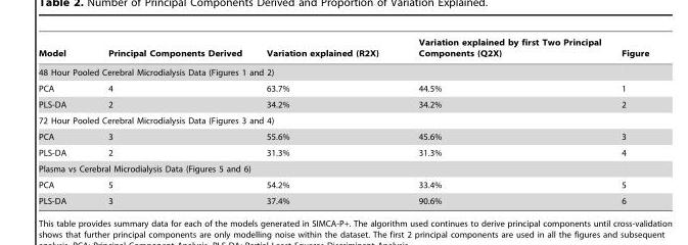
<table><thead><tr><td>Model</td><td>Principal Components Derived</td><td>Variation explained (R2X)</td><td>Variation explained by first Two Principal Components (Q2X)</td><td>Figure</td></tr></thead><tbody><tr><td colspan="5">48 Hour Pooled Cerebral Microdialysis Data (Figures 1 and 2)</td></tr><tr><td>PCA</td><td>4</td><td>63.7%</td><td>44.5%</td><td>1</td></tr><tr><td>PLS-DA</td><td>2</td><td>34.2%</td><td>34.2%</td><td>2</td></tr><tr><td colspan="5">72 Hour Pooled Cerebral Microdialysis Data (Figures 3 and 4)</td></tr><tr><td>PCA</td><td>3</td><td>55.6%</td><td>45.6%</td><td>3</td></tr><tr><td>PLS-DA</td><td>2</td><td>31.3%</td><td>31.3%</td><td>4</td></tr><tr><td colspan="5">Plasma vs Cerebral Microdialysis Data (Figures 5 and 6)</td></tr><tr><td>PCA</td><td>5</td><td>54.2%</td><td>33.4%</td><td>5</td></tr><tr><td>PLS-DA</td><td>3</td><td>37.4%</td><td>90.6%</td><td>6</td></tr></tbody></table>